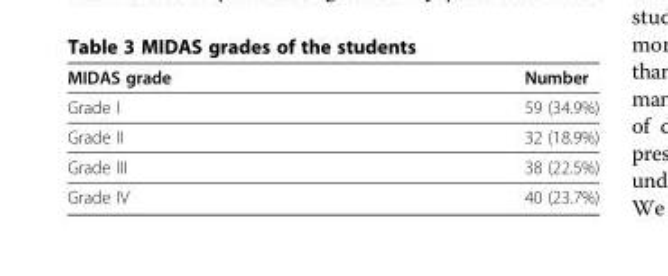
<table><thead><tr><td>MIDAS grade</td><td>Number</td></tr></thead><tbody><tr><td>Grade I</td><td>59 (34.9%)</td></tr><tr><td>Grade II</td><td>32 (18.9%)</td></tr><tr><td>Grade III</td><td>38 (22.5%)</td></tr><tr><td>Grade IV</td><td>40 (23.7%)</td></tr></tbody></table>